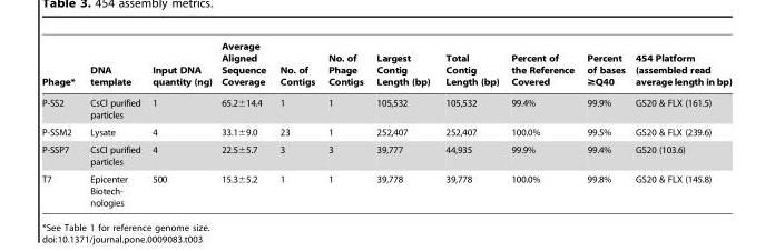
<table><thead><tr><td>Phage*</td><td>DNA template</td><td>Input DNA quantity (ng)</td><td>Average Aligned Sequence Coverage</td><td>No. of Contigs</td><td>No. of Phage Contigs</td><td>Largest Contig Length (bp)</td><td>Total Contig Length (bp)</td><td>Percent of the Reference Covered</td><td>Percent of bases ≥Q40</td><td>454 Platform (assembled read average length in bp)</td></tr></thead><tbody><tr><td>P-SS2</td><td>CsCl purified particles</td><td>1</td><td>65.2±14.4</td><td>1</td><td>1</td><td>105,532</td><td>105,532</td><td>99.4%</td><td>99.9%</td><td>GS20 &amp; FLX (161.5)</td></tr><tr><td>P-SSM2</td><td>Lysate</td><td>4</td><td>33.1±9.0</td><td>23</td><td>1</td><td>252,407</td><td>252,407</td><td>100.0%</td><td>99.5%</td><td>GS20 &amp; FLX (239.6)</td></tr><tr><td>P-SSP7</td><td>CsCl purified particles</td><td>4</td><td>22.5±5.7</td><td>3</td><td>3</td><td>39,777</td><td>44,935</td><td>99.9%</td><td>99.4%</td><td>GS20 (103.6)</td></tr><tr><td>T7</td><td>Epicenter Biotech- nologies</td><td>500</td><td>15.3±5.2</td><td>1</td><td>1</td><td>39,778</td><td>39,778</td><td>100.0%</td><td>99.8%</td><td>GS20 &amp; FLX (145.8)</td></tr></tbody></table>